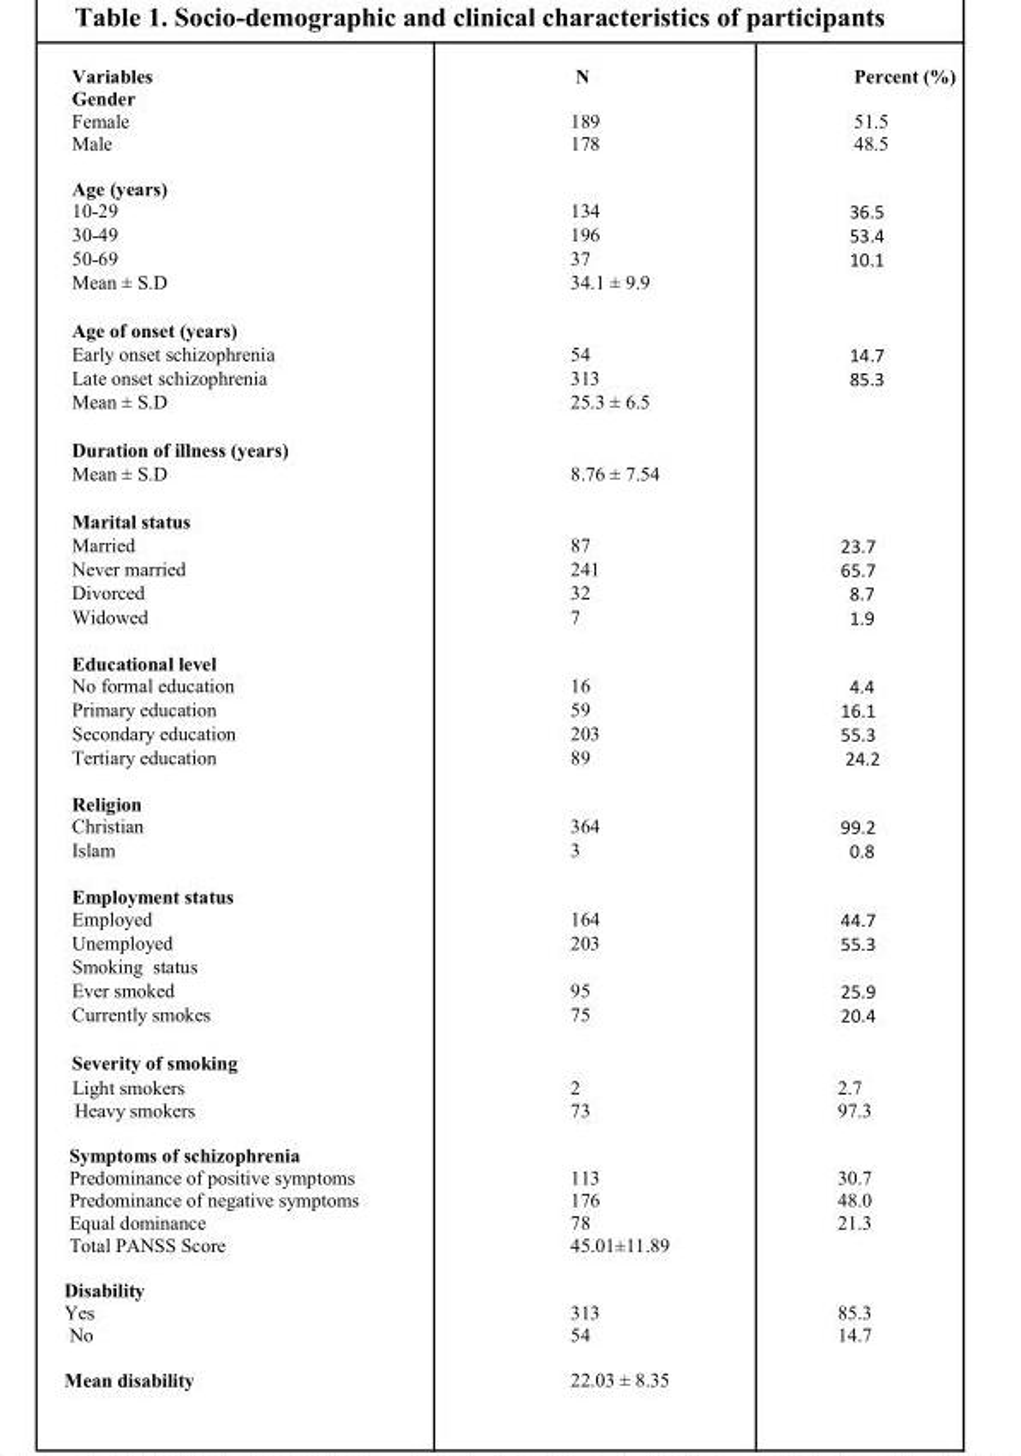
<table><thead><tr><td>Variables</td><td>N</td><td>Percent (%)</td></tr></thead><tbody><tr><td colspan="3">Gender</td></tr><tr><td>Female</td><td>189</td><td>51.5</td></tr><tr><td>Male</td><td>178</td><td>48.5</td></tr><tr><td colspan="3">Age (years)</td></tr><tr><td>10-29</td><td>134</td><td>36.5</td></tr><tr><td>30-49</td><td>196</td><td>53.4</td></tr><tr><td>50-69</td><td>37</td><td>10.1</td></tr><tr><td>Mean ± S.D</td><td>34.1 ± 9.9</td><td></td></tr><tr><td colspan="3">Age of onset (years)</td></tr><tr><td>Early onset schizophrenia</td><td>54</td><td>14.7</td></tr><tr><td>Late onset schizophrenia</td><td>313</td><td>85.3</td></tr><tr><td>Mean ± S.D</td><td>25.3 ± 6.5</td><td></td></tr><tr><td colspan="3">Duration of illness (years)</td></tr><tr><td>Mean ± S.D</td><td>8.76 ± 7.54</td><td></td></tr><tr><td colspan="3">Marital status</td></tr><tr><td>Married</td><td>87</td><td>23.7</td></tr><tr><td>Never married</td><td>241</td><td>65.7</td></tr><tr><td>Divorced</td><td>32</td><td>8.7</td></tr><tr><td>Widowed</td><td>7</td><td>1.9</td></tr><tr><td colspan="3">Educational level</td></tr><tr><td>No formal education</td><td>16</td><td>4.4</td></tr><tr><td>Primary education</td><td>59</td><td>16.1</td></tr><tr><td>Secondary education</td><td>203</td><td>55.3</td></tr><tr><td>Tertiary education</td><td>89</td><td>24.2</td></tr><tr><td colspan="3">Religion</td></tr><tr><td>Christian</td><td>364</td><td>99.2</td></tr><tr><td>Islam</td><td>3</td><td>0.8</td></tr><tr><td colspan="3">Employment status</td></tr><tr><td>Employed</td><td>164</td><td>44.7</td></tr><tr><td>Unemployed</td><td>203</td><td>55.3</td></tr><tr><td colspan="3">Smoking status</td></tr><tr><td>Ever smoked</td><td>95</td><td>25.9</td></tr><tr><td>Currently smokes</td><td>75</td><td>20.4</td></tr><tr><td colspan="3">Severity of smoking</td></tr><tr><td>Light smokers</td><td>2</td><td>2.7</td></tr><tr><td>Heavy smokers</td><td>73</td><td>97.3</td></tr><tr><td colspan="3">Symptoms of schizophrenia</td></tr><tr><td>Predominance of positive symptoms</td><td>113</td><td>30.7</td></tr><tr><td>Predominance of negative symptoms</td><td>176</td><td>48.0</td></tr><tr><td>Equal dominance</td><td>78</td><td>21.3</td></tr><tr><td>Total PANSS Score</td><td>45.01±11.89</td><td></td></tr><tr><td colspan="3">Disability</td></tr><tr><td>Yes</td><td>313</td><td>85.3</td></tr><tr><td>No</td><td>54</td><td>14.7</td></tr><tr><td>Mean disability</td><td>22.03 ± 8.35</td><td></td></tr></tbody></table>